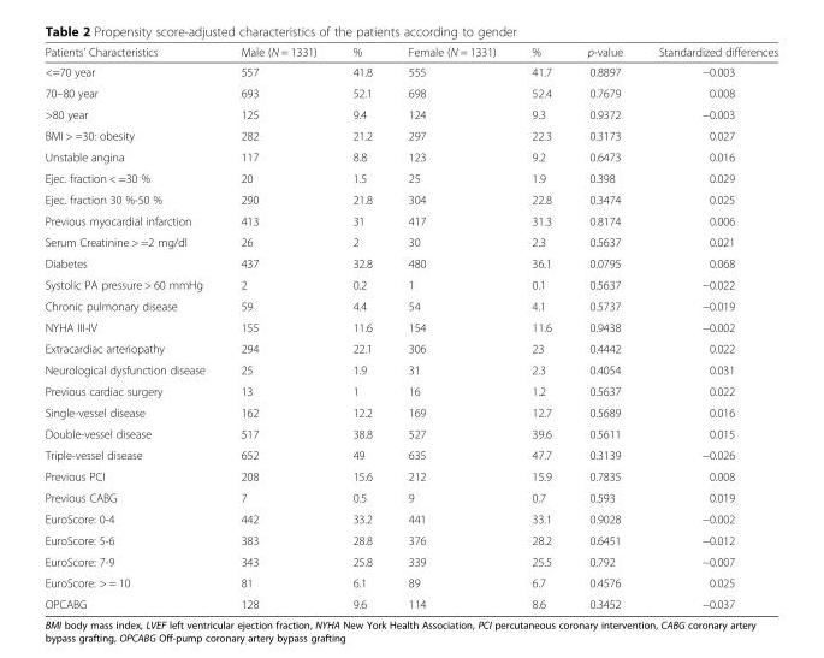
<table><thead><tr><td>Patients&#x27; Characteristics</td><td>Male (N = 1331)</td><td>%</td><td>Female (N = 1331)</td><td>%</td><td>p-value</td><td>Standardized differences</td></tr></thead><tbody><tr><td>&lt;=70 year</td><td>557</td><td>41.8</td><td>555</td><td>41.7</td><td>0.8897</td><td>−0.003</td></tr><tr><td>70–80 year</td><td>693</td><td>52.1</td><td>698</td><td>52.4</td><td>0.7679</td><td>0.008</td></tr><tr><td>&gt;80 year</td><td>125</td><td>9.4</td><td>124</td><td>9.3</td><td>0.9372</td><td>−0.003</td></tr><tr><td>BMI &gt; =30: obesity</td><td>282</td><td>21.2</td><td>297</td><td>22.3</td><td>0.3173</td><td>0.027</td></tr><tr><td>Unstable angina</td><td>117</td><td>8.8</td><td>123</td><td>9.2</td><td>0.6473</td><td>0.016</td></tr><tr><td>Ejec. fraction &lt; =30 %</td><td>20</td><td>1.5</td><td>25</td><td>1.9</td><td>0.398</td><td>0.029</td></tr><tr><td>Ejec. fraction 30 %-50 %</td><td>290</td><td>21.8</td><td>304</td><td>22.8</td><td>0.3474</td><td>0.025</td></tr><tr><td>Previous myocardial infarction</td><td>413</td><td>31</td><td>417</td><td>31.3</td><td>0.8174</td><td>0.006</td></tr><tr><td>Serum Creatinine &gt; =2 mg/dl</td><td>26</td><td>2</td><td>30</td><td>2.3</td><td>0.5637</td><td>0.021</td></tr><tr><td>Diabetes</td><td>437</td><td>32.8</td><td>480</td><td>36.1</td><td>0.0795</td><td>0.068</td></tr><tr><td>Systolic PA pressure &gt; 60 mmHg</td><td>2</td><td>0.2</td><td>1</td><td>0.1</td><td>0.5637</td><td>−0.022</td></tr><tr><td>Chronic pulmonary disease</td><td>59</td><td>4.4</td><td>54</td><td>4.1</td><td>0.5737</td><td>−0.019</td></tr><tr><td>NYHA III-IV</td><td>155</td><td>11.6</td><td>154</td><td>11.6</td><td>0.9438</td><td>−0.002</td></tr><tr><td>Extracardiac arteriopathy</td><td>294</td><td>22.1</td><td>306</td><td>23</td><td>0.4442</td><td>0.022</td></tr><tr><td>Neurological dysfunction disease</td><td>25</td><td>1.9</td><td>31</td><td>2.3</td><td>0.4054</td><td>0.031</td></tr><tr><td>Previous cardiac surgery</td><td>13</td><td>1</td><td>16</td><td>1.2</td><td>0.5637</td><td>0.022</td></tr><tr><td>Single-vessel disease</td><td>162</td><td>12.2</td><td>169</td><td>12.7</td><td>0.5689</td><td>0.016</td></tr><tr><td>Double-vessel disease</td><td>517</td><td>38.8</td><td>527</td><td>39.6</td><td>0.5611</td><td>0.015</td></tr><tr><td>Triple-vessel disease</td><td>652</td><td>49</td><td>635</td><td>47.7</td><td>0.3139</td><td>−0.026</td></tr><tr><td>Previous PCI</td><td>208</td><td>15.6</td><td>212</td><td>15.9</td><td>0.7835</td><td>0.008</td></tr><tr><td>Previous CABG</td><td>7</td><td>0.5</td><td>9</td><td>0.7</td><td>0.593</td><td>0.019</td></tr><tr><td>EuroScore: 0-4</td><td>442</td><td>33.2</td><td>441</td><td>33.1</td><td>0.9028</td><td>−0.002</td></tr><tr><td>EuroScore: 5-6</td><td>383</td><td>28.8</td><td>376</td><td>28.2</td><td>0.6451</td><td>−0.012</td></tr><tr><td>EuroScore: 7-9</td><td>343</td><td>25.8</td><td>339</td><td>25.5</td><td>0.792</td><td>−0.007</td></tr><tr><td>EuroScore: &gt; = 10</td><td>81</td><td>6.1</td><td>89</td><td>6.7</td><td>0.4576</td><td>0.025</td></tr><tr><td>OPCABG</td><td>128</td><td>9.6</td><td>114</td><td>8.6</td><td>0.3452</td><td>−0.037</td></tr></tbody></table>